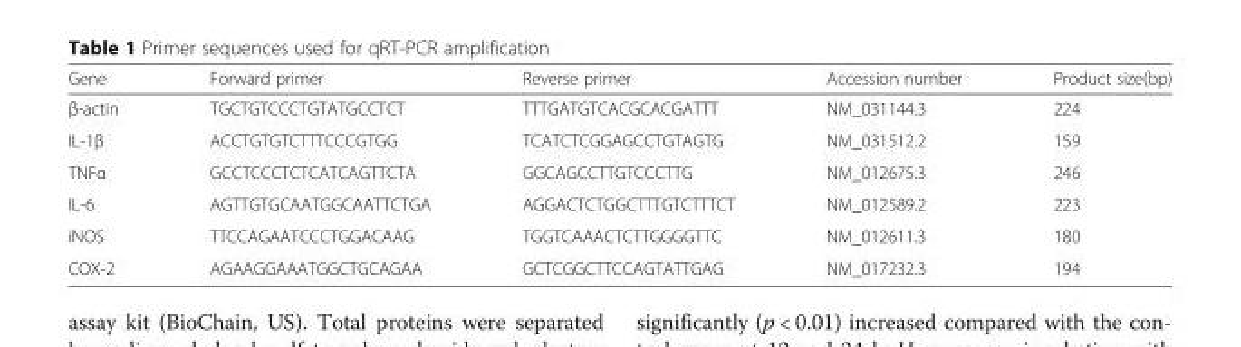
<table><thead><tr><td>Gene</td><td>Forward primer</td><td>Reverse primer</td><td>Accession number</td><td>Product size(bp)</td></tr></thead><tbody><tr><td>β-actin</td><td>TGCTGTCCCTGTATGCCTCT</td><td>TTTGATGTCACGCACGATTT</td><td>NM_031144.3</td><td>224</td></tr><tr><td>IL-1β</td><td>ACCTGTGTCTTTCCCGTGG</td><td>TCATCTCGGAGCCTGTAGTG</td><td>NM_031512.2</td><td>159</td></tr><tr><td>TNFα</td><td>GCCTCCCTCTCATCAGTTCTA</td><td>GGCAGCCTTGTCCCTTG</td><td>NM_012675.3</td><td>246</td></tr><tr><td>IL-6</td><td>AGTTGTGCAATGGCAATTCTGA</td><td>AGGACTCTGGCTTTGTCTTTCT</td><td>NM_012589.2</td><td>223</td></tr><tr><td>iNOS</td><td>TTCCAGAATCCCTGGACAAG</td><td>TGGTCAAACTCTTGGGGTTC</td><td>NM_012611.3</td><td>180</td></tr><tr><td>COX-2</td><td>AGAAGGAAATGGCTGCAGAA</td><td>GCTCGGCTTCCAGTATTGAG</td><td>NM_017232.3</td><td>194</td></tr></tbody></table>